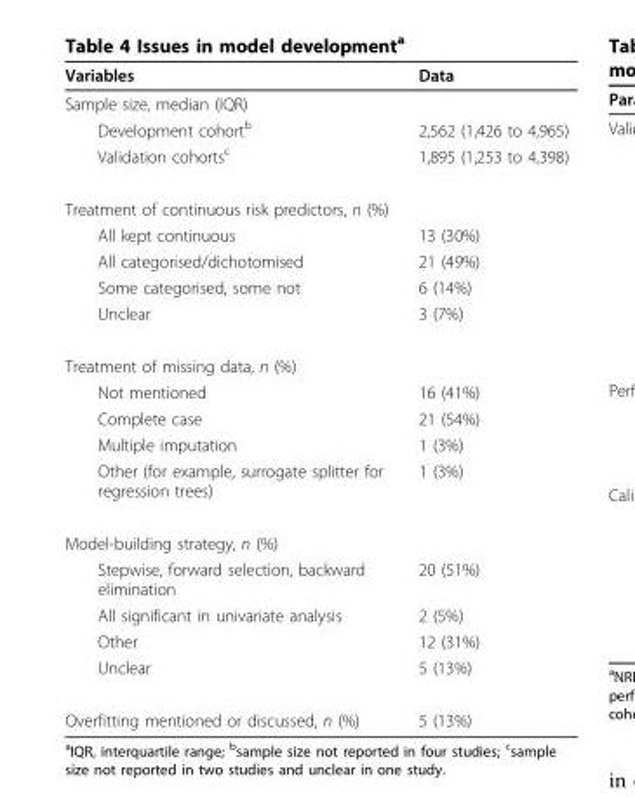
<table><thead><tr><td>Variables</td><td>Data</td></tr></thead><tbody><tr><td colspan="2">Sample size, median (IQR)</td></tr><tr><td>Development cohort<sup>b</sup></td><td>2,562 (1,426 to 4,965)</td></tr><tr><td>Validation cohorts<sup>c</sup></td><td>1,895 (1,253 to 4,398)</td></tr><tr><td colspan="2">Treatment of continuous risk predictors, n (%)</td></tr><tr><td>All kept continuous</td><td>13 (30%)</td></tr><tr><td>All categorised/dichotomised</td><td>21 (49%)</td></tr><tr><td>Some categorised, some not</td><td>6 (14%)</td></tr><tr><td>Unclear</td><td>3 (7%)</td></tr><tr><td colspan="2">Treatment of missing data, n (%)</td></tr><tr><td>Not mentioned</td><td>16 (41%)</td></tr><tr><td>Complete case</td><td>21 (54%)</td></tr><tr><td>Multiple imputation</td><td>1 (3%)</td></tr><tr><td>Other (for example, surrogate splitter for regression trees)</td><td>1 (3%)</td></tr><tr><td colspan="2">Model-building strategy, n (%)</td></tr><tr><td>Stepwise, forward selection, backward elimination</td><td>20 (51%)</td></tr><tr><td>All significant in univariate analysis</td><td>2 (5%)</td></tr><tr><td>Other</td><td>12 (31%)</td></tr><tr><td>Unclear</td><td>5 (13%)</td></tr><tr><td>Overfitting mentioned or discussed, n (%)</td><td>5 (13%)</td></tr></tbody></table>